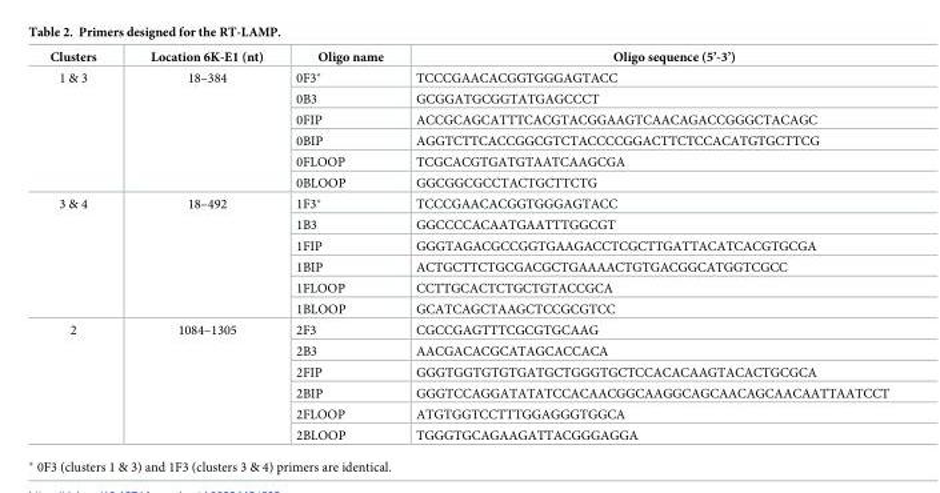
<table><thead><tr><td>Clusters</td><td>Location 6K-E1 (nt)</td><td>Oligo name</td><td>Oligo sequence (5’-3’)</td></tr></thead><tbody><tr><td rowspan="6">1 &amp; 3</td><td rowspan="6">18–384</td><td>0F3*</td><td>TCCCGAACACGGTGGGAGTACC</td></tr><tr><td>0B3</td><td>GCGGATGCGGTATGAGCCCT</td></tr><tr><td>0FIP</td><td>ACCGCAGCATTTCACGTACGGAAGTCAACAGACCGGGCTACAGC</td></tr><tr><td>0BIP</td><td>AGGTCTTCACCGGCGTCTACCCCGGACTTCTCCACATGTGCTTCG</td></tr><tr><td>0FLOOP</td><td>TCGCACGTGATGTAATCAAGCGA</td></tr><tr><td>0BLOOP</td><td>GGCGGCGCCTACTGCTTCTG</td></tr><tr><td rowspan="6">3 &amp; 4</td><td rowspan="6">18–492</td><td>1F3*</td><td>TCCCGAACACGGTGGGAGTACC</td></tr><tr><td>1B3</td><td>GGCCCCACAATGAATTTGGCGT</td></tr><tr><td>1FIP</td><td>GGGTAGACGCCGGTGAAGACCTCGCTTGATTACATCACGTGCGA</td></tr><tr><td>1BIP</td><td>ACTGCTTCTGCGACGCTGAAAACTGTGACGGCATGGTCGCC</td></tr><tr><td>1FLOOP</td><td>CCTTGCACTCTGCTGTACCGCA</td></tr><tr><td>1BLOOP</td><td>GCATCAGCTAAGCTCCGCGTCC</td></tr><tr><td rowspan="6">2</td><td rowspan="6">1084–1305</td><td>2F3</td><td>CGCCGAGTTTCGCGTGCAAG</td></tr><tr><td>2B3</td><td>AACGACACGCATAGCACCACA</td></tr><tr><td>2FIP</td><td>GGGTGGTGTGTGATGCTGGGTGCTCCACACAAGTACACTGCGCA</td></tr><tr><td>2BIP</td><td>GGGTCCAGGATATATCCACAACGGCAAGGCAGCAACAGCAACAATTAATCCT</td></tr><tr><td>2FLOOP</td><td>ATGTGGTCCTTTGGAGGGTGGCA</td></tr><tr><td>2BLOOP</td><td>TGGGTGCAGAAGATTACGGGAGGA</td></tr></tbody></table>